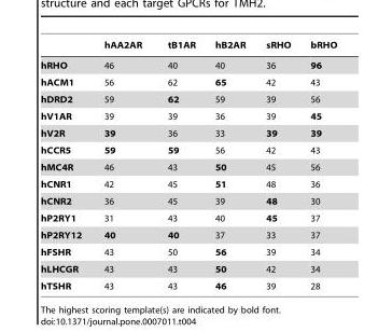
<table><thead><tr><td></td><td>hAA2AR</td><td>tB1AR</td><td>hB2AR</td><td>sRHO</td><td>bRHO</td></tr></thead><tbody><tr><td>hRHO</td><td>46</td><td>40</td><td>40</td><td>36</td><td>96</td></tr><tr><td>hACM1</td><td>56</td><td>62</td><td>65</td><td>42</td><td>43</td></tr><tr><td>hDRD2</td><td>59</td><td>62</td><td>59</td><td>39</td><td>56</td></tr><tr><td>hV1AR</td><td>39</td><td>39</td><td>36</td><td>39</td><td>45</td></tr><tr><td>hV2R</td><td>39</td><td>36</td><td>33</td><td>39</td><td>39</td></tr><tr><td>hCCR5</td><td>59</td><td>59</td><td>56</td><td>42</td><td>43</td></tr><tr><td>hMC4R</td><td>46</td><td>43</td><td>50</td><td>45</td><td>56</td></tr><tr><td>hCNR1</td><td>42</td><td>45</td><td>51</td><td>48</td><td>36</td></tr><tr><td>hCNR2</td><td>36</td><td>45</td><td>39</td><td>48</td><td>30</td></tr><tr><td>hP2RY1</td><td>31</td><td>43</td><td>40</td><td>45</td><td>37</td></tr><tr><td>hP2RY12</td><td>40</td><td>40</td><td>37</td><td>33</td><td>37</td></tr><tr><td>hFSHR</td><td>43</td><td>50</td><td>56</td><td>39</td><td>34</td></tr><tr><td>hLHCGR</td><td>43</td><td>43</td><td>50</td><td>42</td><td>34</td></tr><tr><td>hTSHR</td><td>43</td><td>43</td><td>46</td><td>39</td><td>28</td></tr></tbody></table>